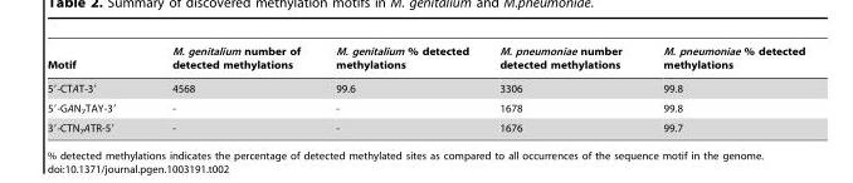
<table><thead><tr><td>Motif</td><td>M. genitalium number of detected methylations</td><td>M. genitalium % detected methylations</td><td>M. pneumoniae number detected methylations</td><td>M. pneumoniae % detected methylations</td></tr></thead><tbody><tr><td>5′-CTAT-3′</td><td>4568</td><td>99.6</td><td>3306</td><td>99.8</td></tr><tr><td>5′-GAN<sub>7</sub>TAY-3′</td><td>-</td><td>-</td><td>1678</td><td>99.8</td></tr><tr><td>3′-CTN<sub>7</sub>ATR-5′</td><td>-</td><td>-</td><td>1676</td><td>99.7</td></tr></tbody></table>